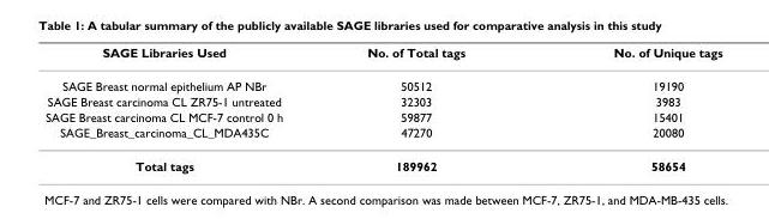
<table><thead><tr><td>SAGE Libraries Used</td><td>No. of Total tags</td><td>No. of Unique tags</td></tr></thead><tbody><tr><td>SAGE Breast normal epithelium AP NBr</td><td>50512</td><td>19190</td></tr><tr><td>SAGE Breast carcinoma CL ZR75-1 untreated</td><td>32303</td><td>3983</td></tr><tr><td>SAGE Breast carcinoma CL MCF-7 control 0 h</td><td>59877</td><td>15401</td></tr><tr><td>SAGE_Breast_carcinoma_CL_MDA435C</td><td>47270</td><td>20080</td></tr><tr><td>Total tags</td><td>189962</td><td>58654</td></tr></tbody></table>